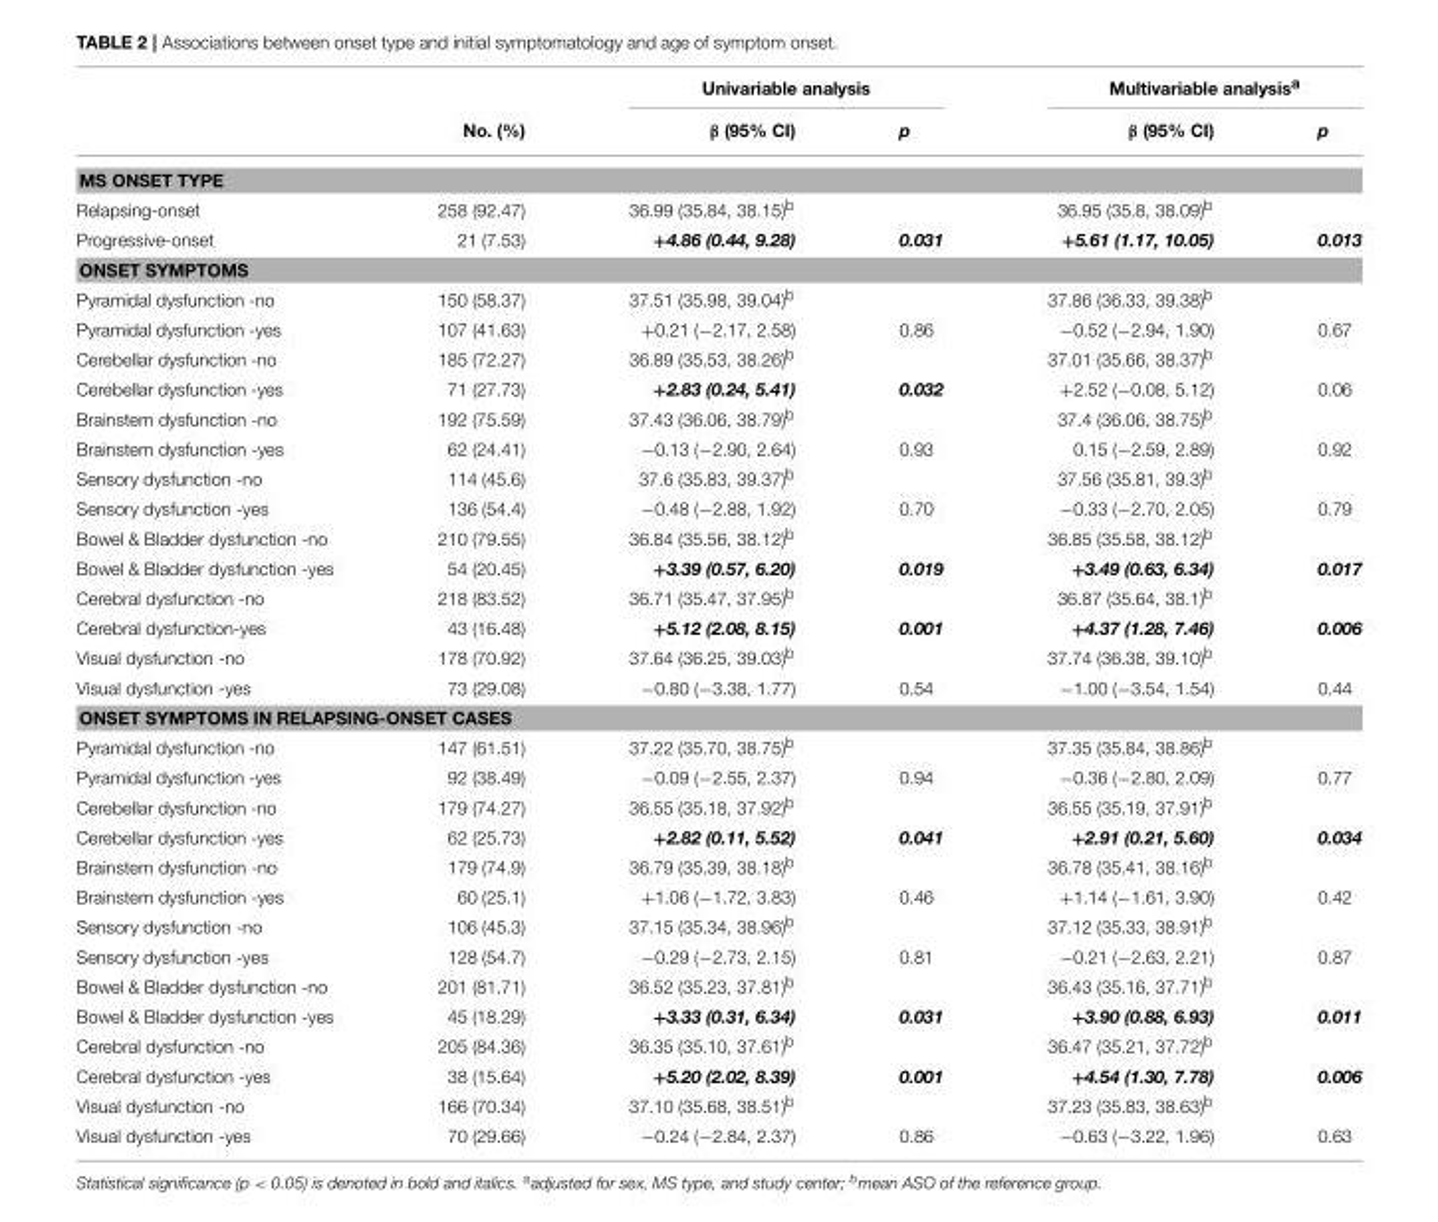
<table><thead><tr><td rowspan="2"></td><td rowspan="2">No. (%)</td><td colspan="2">Univariable analysis</td><td colspan="2">Multivariable analysis<sup>a</sup></td></tr><tr><td>β (95% CI)</td><td>p</td><td>β (95% CI)</td><td>p</td></tr></thead><tbody><tr><td colspan="6">MS ONSET TYPE</td></tr><tr><td>Relapsing-onset</td><td>258 (92.47)</td><td>36.99 (35.84, 38.15)<sup>b</sup></td><td></td><td>36.95 (35.8, 38.09)<sup>b</sup></td><td></td></tr><tr><td>Progressive-onset</td><td>21 (7.53)</td><td>+4.86 (0.44, 9.28)</td><td>0.031</td><td>+5.61 (1.17, 10.05)</td><td>0.013</td></tr><tr><td colspan="6">ONSET SYMPTOMS</td></tr><tr><td>Pyramidal dysfunction -no</td><td>150 (58.37)</td><td>37.51 (35.98, 39.04)<sup>b</sup></td><td></td><td>37.86 (36.33, 39.38)<sup>b</sup></td><td></td></tr><tr><td>Pyramidal dysfunction -yes</td><td>107 (41.63)</td><td>+0.21 (−2.17, 2.58)</td><td>0.86</td><td>−0.52 (−2.94, 1.90)</td><td>0.67</td></tr><tr><td>Cerebellar dysfunction -no</td><td>185 (72.27)</td><td>36.89 (35.53, 38.26)<sup>b</sup></td><td></td><td>37.01 (35.66, 38.37)<sup>b</sup></td><td></td></tr><tr><td>Cerebellar dysfunction -yes</td><td>71 (27.73)</td><td>+2.83 (0.24, 5.41)</td><td>0.032</td><td>+2.52 (−0.08, 5.12)</td><td>0.06</td></tr><tr><td>Brainstem dysfunction -no</td><td>192 (75.59)</td><td>37.43 (36.06, 38.79)<sup>b</sup></td><td></td><td>37.4 (36.06, 38.75)<sup>b</sup></td><td></td></tr><tr><td>Brainstem dysfunction -yes</td><td>62 (24.41)</td><td>−0.13 (−2.90, 2.64)</td><td>0.93</td><td>0.15 (−2.59, 2.89)</td><td>0.92</td></tr><tr><td>Sensory dysfunction -no</td><td>114 (45.6)</td><td>37.6 (35.83, 39.37)<sup>b</sup></td><td></td><td>37.56 (35.81, 39.3)<sup>b</sup></td><td></td></tr><tr><td>Sensory dysfunction -yes</td><td>136 (54.4)</td><td>−0.48 (−2.88, 1.92)</td><td>0.70</td><td>−0.33 (−2.70, 2.05)</td><td>0.79</td></tr><tr><td>Bowel &amp; Bladder dysfunction -no</td><td>210 (79.55)</td><td>36.84 (35.56, 38.12)<sup>b</sup></td><td></td><td>36.85 (35.58, 38.12)<sup>b</sup></td><td></td></tr><tr><td>Bowel &amp; Bladder dysfunction -yes</td><td>54 (20.45)</td><td>+3.39 (0.57, 6.20)</td><td>0.019</td><td>+3.49 (0.63, 6.34)</td><td>0.017</td></tr><tr><td>Cerebral dysfunction -no</td><td>218 (83.52)</td><td>36.71 (35.47, 37.95)<sup>b</sup></td><td></td><td>36.87 (35.64, 38.1)<sup>b</sup></td><td></td></tr><tr><td>Cerebral dysfunction-yes</td><td>43 (16.48)</td><td>+5.12 (2.08, 8.15)</td><td>0.001</td><td>+4.37 (1.28, 7.46)</td><td>0.006</td></tr><tr><td>Visual dysfunction -no</td><td>178 (70.92)</td><td>37.64 (36.25, 39.03)<sup>b</sup></td><td></td><td>37.74 (36.38, 39.10)<sup>b</sup></td><td></td></tr><tr><td>Visual dysfunction -yes</td><td>73 (29.08)</td><td>−0.80 (−3.38, 1.77)</td><td>0.54</td><td>−1.00 (−3.54, 1.54)</td><td>0.44</td></tr><tr><td colspan="6">ONSET SYMPTOMS IN RELAPSING-ONSET CASES</td></tr><tr><td>Pyramidal dysfunction -no</td><td>147 (61.51)</td><td>37.22 (35.70, 38.75)<sup>b</sup></td><td></td><td>37.35 (35.84, 38.86)<sup>b</sup></td><td></td></tr><tr><td>Pyramidal dysfunction -yes</td><td>92 (38.49)</td><td>−0.09 (−2.55, 2.37)</td><td>0.94</td><td>−0.36 (−2.80, 2.09)</td><td>0.77</td></tr><tr><td>Cerebellar dysfunction -no</td><td>179 (74.27)</td><td>36.55 (35.18, 37.92)<sup>b</sup></td><td></td><td>36.55 (35.19, 37.91)<sup>b</sup></td><td></td></tr><tr><td>Cerebellar dysfunction -yes</td><td>62 (25.73)</td><td>+2.82 (0.11, 5.52)</td><td>0.041</td><td>+2.91 (0.21, 5.60)</td><td>0.034</td></tr><tr><td>Brainstem dysfunction -no</td><td>179 (74.9)</td><td>36.79 (35.39, 38.18)<sup>b</sup></td><td></td><td>36.78 (35.41, 38.16)<sup>b</sup></td><td></td></tr><tr><td>Brainstem dysfunction -yes</td><td>60 (25.1)</td><td>+1.06 (−1.72, 3.83)</td><td>0.46</td><td>+1.14 (−1.61, 3.90)</td><td>0.42</td></tr><tr><td>Sensory dysfunction -no</td><td>106 (45.3)</td><td>37.15 (35.34, 38.96)<sup>b</sup></td><td></td><td>37.12 (35.33, 38.91)<sup>b</sup></td><td></td></tr><tr><td>Sensory dysfunction -yes</td><td>128 (54.7)</td><td>−0.29 (−2.73, 2.15)</td><td>0.81</td><td>−0.21 (−2.63, 2.21)</td><td>0.87</td></tr><tr><td>Bowel &amp; Bladder dysfunction -no</td><td>201 (81.71)</td><td>36.52 (35.23, 37.81)<sup>b</sup></td><td></td><td>36.43 (35.16, 37.71)<sup>b</sup></td><td></td></tr><tr><td>Bowel &amp; Bladder dysfunction -yes</td><td>45 (18.29)</td><td>+3.33 (0.31, 6.34)</td><td>0.031</td><td>+3.90 (0.88, 6.93)</td><td>0.011</td></tr><tr><td>Cerebral dysfunction -no</td><td>205 (84.36)</td><td>36.35 (35.10, 37.61)<sup>b</sup></td><td></td><td>36.47 (35.21, 37.72)<sup>b</sup></td><td></td></tr><tr><td>Cerebral dysfunction -yes</td><td>38 (15.64)</td><td>+5.20 (2.02, 8.39)</td><td>0.001</td><td>+4.54 (1.30, 7.78)</td><td>0.006</td></tr><tr><td>Visual dysfunction -no</td><td>166 (70.34)</td><td>37.10 (35.68, 38.51)<sup>b</sup></td><td></td><td>37.23 (35.83, 38.63)<sup>b</sup></td><td></td></tr><tr><td>Visual dysfunction -yes</td><td>70 (29.66)</td><td>−0.24 (−2.84, 2.37)</td><td>0.86</td><td>−0.63 (−3.22, 1.96)</td><td>0.63</td></tr></tbody></table>